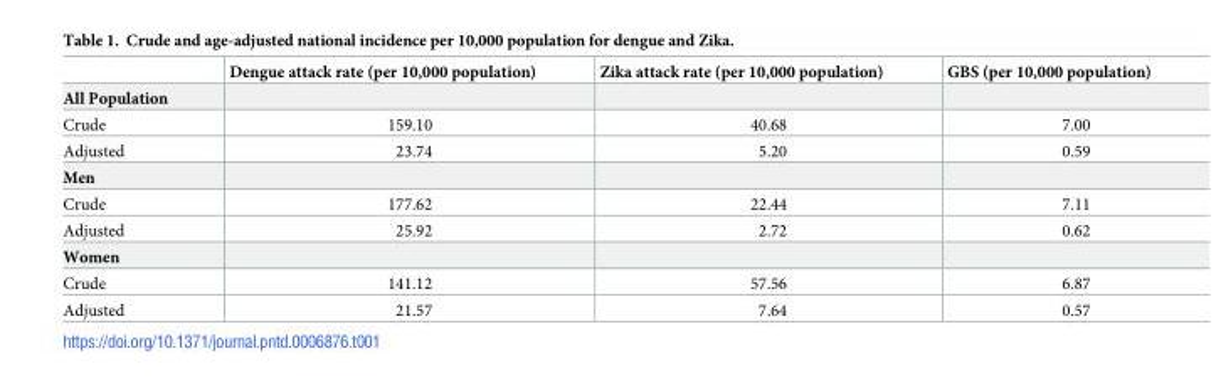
<table><thead><tr><td></td><td>Dengue attack rate (per 10,000 population)</td><td>Zika attack rate (per 10,000 population)</td><td>GBS (per 10,000 population)</td></tr></thead><tbody><tr><td colspan="4">All Population</td></tr><tr><td>Crude</td><td>159.10</td><td>40.68</td><td>7.00</td></tr><tr><td>Adjusted</td><td>23.74</td><td>5.20</td><td>0.59</td></tr><tr><td colspan="4">Men</td></tr><tr><td>Crude</td><td>177.62</td><td>22.44</td><td>7.11</td></tr><tr><td>Adjusted</td><td>25.92</td><td>2.72</td><td>0.62</td></tr><tr><td colspan="4">Women</td></tr><tr><td>Crude</td><td>141.12</td><td>57.56</td><td>6.87</td></tr><tr><td>Adjusted</td><td>21.57</td><td>7.64</td><td>0.57</td></tr></tbody></table>